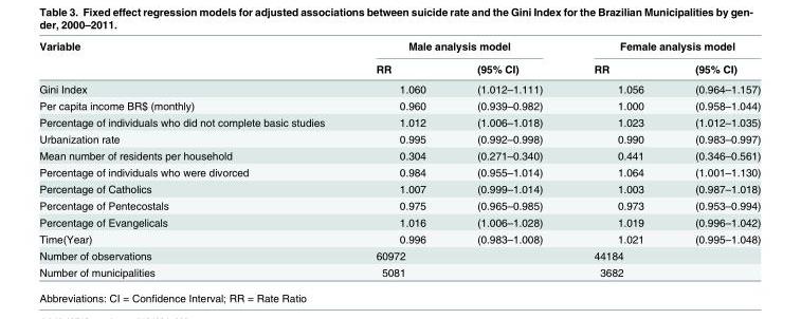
<table><thead><tr><td rowspan="2">Variable</td><td colspan="2">Male analysis model</td><td colspan="2">Female analysis model</td></tr><tr><td>RR</td><td>(95% CI)</td><td>RR</td><td>(95% CI)</td></tr></thead><tbody><tr><td>Gini Index</td><td>1.060</td><td>(1.012–1.111)</td><td>1.056</td><td>(0.964–1.157)</td></tr><tr><td>Per capita income BR$ (monthly)</td><td>0.960</td><td>(0.939–0.982)</td><td>1.000</td><td>(0.958–1.044)</td></tr><tr><td>Percentage of individuals who did not complete basic studies</td><td>1.012</td><td>(1.006–1.018)</td><td>1.023</td><td>(1.012–1.035)</td></tr><tr><td>Urbanization rate</td><td>0.995</td><td>(0.992–0.998)</td><td>0.990</td><td>(0.983–0.997)</td></tr><tr><td>Mean number of residents per household</td><td>0.304</td><td>(0.271–0.340)</td><td>0.441</td><td>(0.346–0.561)</td></tr><tr><td>Percentage of individuals who were divorced</td><td>0.984</td><td>(0.955–1.014)</td><td>1.064</td><td>(1.001–1.130)</td></tr><tr><td>Percentage of Catholics</td><td>1.007</td><td>(0.999–1.014)</td><td>1.003</td><td>(0.987–1.018)</td></tr><tr><td>Percentage of Pentecostals</td><td>0.975</td><td>(0.965–0.985)</td><td>0.973</td><td>(0.953–0.994)</td></tr><tr><td>Percentage of Evangelicals</td><td>1.016</td><td>(1.006–1.028)</td><td>1.019</td><td>(0.996–1.042)</td></tr><tr><td>Time(Year)</td><td>0.996</td><td>(0.983–1.008)</td><td>1.021</td><td>(0.995–1.048)</td></tr><tr><td>Number of observations</td><td>60972</td><td></td><td>44184</td><td></td></tr><tr><td>Number of municipalities</td><td>5081</td><td></td><td>3682</td><td></td></tr></tbody></table>